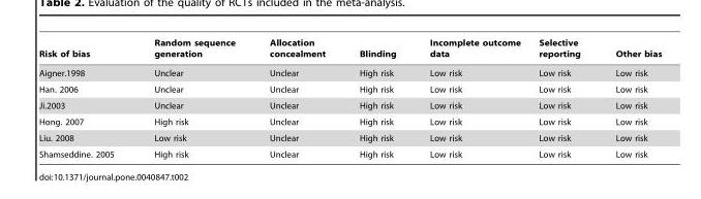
<table><thead><tr><td>Risk of bias</td><td>Random sequence generation</td><td>Allocation concealment</td><td>Blinding</td><td>Incomplete outcome data</td><td>Selective reporting</td><td>Other bias</td></tr></thead><tbody><tr><td>Aigner.1998</td><td>Unclear</td><td>Unclear</td><td>High risk</td><td>Low risk</td><td>Low risk</td><td>Low risk</td></tr><tr><td>Han. 2006</td><td>Unclear</td><td>Unclear</td><td>High risk</td><td>Low risk</td><td>Low risk</td><td>Low risk</td></tr><tr><td>Ji.2003</td><td>Unclear</td><td>Unclear</td><td>High risk</td><td>Low risk</td><td>Low risk</td><td>Low risk</td></tr><tr><td>Hong. 2007</td><td>High risk</td><td>Unclear</td><td>High risk</td><td>Low risk</td><td>Low risk</td><td>Low risk</td></tr><tr><td>Liu. 2008</td><td>Low risk</td><td>Unclear</td><td>High risk</td><td>Low risk</td><td>Low risk</td><td>Low risk</td></tr><tr><td>Shamseddine. 2005</td><td>High risk</td><td>Unclear</td><td>High risk</td><td>Low risk</td><td>Low risk</td><td>Low risk</td></tr></tbody></table>